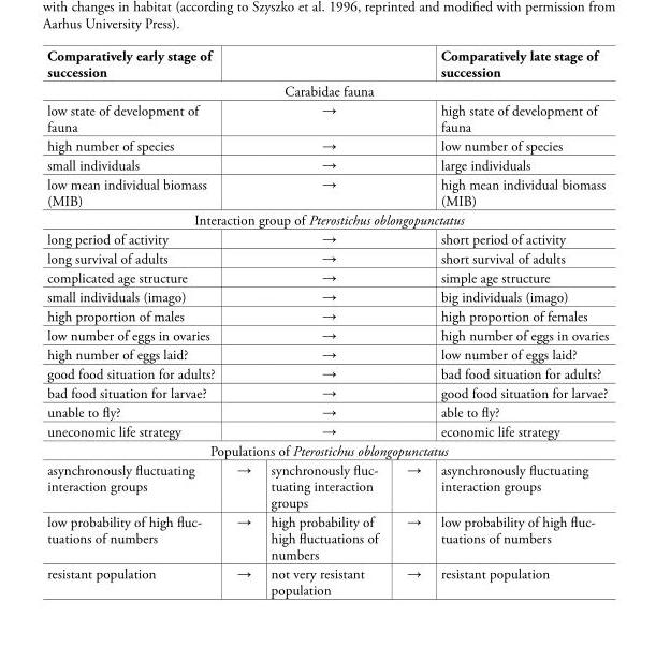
<table><tbody><tr><td>Comparatively early stage of succession</td><td colspan="3"></td><td>Comparatively late stage of succession</td></tr><tr><td colspan="5">Carabidae fauna</td></tr><tr><td>low state of development of fauna</td><td colspan="3">→</td><td>high state of development of fauna</td></tr><tr><td>high number of species</td><td colspan="3">→</td><td>low number of species</td></tr><tr><td>small individuals</td><td colspan="3">→</td><td>large individuals</td></tr><tr><td>low mean individual biomass (MIB)</td><td colspan="3">→</td><td>high mean individual biomass (MIB)</td></tr><tr><td colspan="5">Interaction group of Pterostichus oblongopunctatus</td></tr><tr><td>long period of activity</td><td colspan="3">→</td><td>short period of activity</td></tr><tr><td>long survival of adults</td><td colspan="3">→</td><td>short survival of adults</td></tr><tr><td>complicated age structure</td><td colspan="3">→</td><td>simple age structure</td></tr><tr><td>small individuals (imago)</td><td colspan="3">→</td><td>big individuals (imago)</td></tr><tr><td>high proportion of males</td><td colspan="3">→</td><td>high proportion of females</td></tr><tr><td>low number of eggs in ovaries</td><td colspan="3">→</td><td>high number of eggs in ovaries</td></tr><tr><td>high number of eggs laid?</td><td colspan="3">→</td><td>low number of eggs laid?</td></tr><tr><td>good food situation for adults?</td><td colspan="3">→</td><td>bad food situation for adults?</td></tr><tr><td>bad food situation for larvae?</td><td colspan="3">→</td><td>good food situation for larvae?</td></tr><tr><td>unable to fly?</td><td colspan="3">→</td><td>able to fly?</td></tr><tr><td>uneconomic life strategy</td><td colspan="3">→</td><td>economic life strategy</td></tr><tr><td colspan="5">Populations of Pterostichus oblongopunctatus</td></tr><tr><td>asynchronously fluctuating interaction groups</td><td>→</td><td>synchronously fluc- tuating interaction groups</td><td>→</td><td>asynchronously fluctuating interaction groups</td></tr><tr><td>low probability of high fluc- tuations of numbers</td><td>→</td><td>high probability of high fluctuations of numbers</td><td>→</td><td>low probability of high fluc- tuations of numbers</td></tr><tr><td>resistant population</td><td>→</td><td>not very resistant population</td><td>→</td><td>resistant population</td></tr></tbody></table>